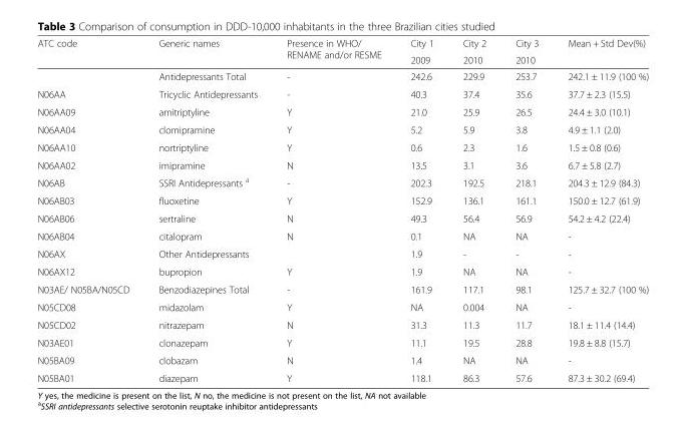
<table><thead><tr><td rowspan="2">ATC code</td><td rowspan="2">Generic names</td><td rowspan="2">Presence in WHO/ RENAME and/or RESME</td><td rowspan="2">City 1 2009</td><td rowspan="2">City 2 2010</td><td rowspan="2">City 3 2010</td><td rowspan="2">Mean + Std Dev(%)</td></tr><tr></tr></thead><tbody><tr><td></td><td>Antidepressants Total</td><td>-</td><td>242.6</td><td>229.9</td><td>253.7</td><td>242.1 ± 11.9 (100 %)</td></tr><tr><td>N06AA</td><td>Tricyclic Antidepressants</td><td>-</td><td>40.3</td><td>37.4</td><td>35.6</td><td>37.7 ± 2.3 (15.5)</td></tr><tr><td>N06AA09</td><td>amitriptyline</td><td>Y</td><td>21.0</td><td>25.9</td><td>26.5</td><td>24.4 ± 3.0 (10.1)</td></tr><tr><td>N06AA04</td><td>clomipramine</td><td>Y</td><td>5.2</td><td>5.9</td><td>3.8</td><td>4.9 ± 1.1 (2.0)</td></tr><tr><td>N06AA10</td><td>nortriptyline</td><td>Y</td><td>0.6</td><td>2.3</td><td>1.6</td><td>1.5 ± 0.8 (0.6)</td></tr><tr><td>N06AA02</td><td>imipramine</td><td>N</td><td>13.5</td><td>3.1</td><td>3.6</td><td>6.7 ± 5.8 (2.7)</td></tr><tr><td>N06AB</td><td>SSRI Antidepressants <sup>a</sup></td><td>-</td><td>202.3</td><td>192.5</td><td>218.1</td><td>204.3 ± 12.9 (84.3)</td></tr><tr><td>N06AB03</td><td>fluoxetine</td><td>Y</td><td>152.9</td><td>136.1</td><td>161.1</td><td>150.0 ± 12.7 (61.9)</td></tr><tr><td>N06AB06</td><td>sertraline</td><td>N</td><td>49.3</td><td>56.4</td><td>56.9</td><td>54.2 ± 4.2 (22.4)</td></tr><tr><td>N06AB04</td><td>citalopram</td><td>N</td><td>0.1</td><td>NA</td><td>NA</td><td>-</td></tr><tr><td>N06AX</td><td>Other Antidepressants</td><td></td><td>1.9</td><td>-</td><td>-</td><td>-</td></tr><tr><td>N06AX12</td><td>bupropion</td><td>Y</td><td>1.9</td><td>NA</td><td>NA</td><td>-</td></tr><tr><td>N03AE/ N05BA/N05CD</td><td>Benzodiazepines Total</td><td>-</td><td>161.9</td><td>117.1</td><td>98.1</td><td>125.7 ± 32.7 (100 %)</td></tr><tr><td>N05CD08</td><td>midazolam</td><td>Y</td><td>NA</td><td>0.004</td><td>NA</td><td>-</td></tr><tr><td>N05CD02</td><td>nitrazepam</td><td>N</td><td>31.3</td><td>11.3</td><td>11.7</td><td>18.1 ± 11.4 (14.4)</td></tr><tr><td>N03AE01</td><td>clonazepam</td><td>Y</td><td>11.1</td><td>19.5</td><td>28.8</td><td>19.8 ± 8.8 (15.7)</td></tr><tr><td>N05BA09</td><td>clobazam</td><td>N</td><td>1.4</td><td>NA</td><td>NA</td><td>-</td></tr><tr><td>N05BA01</td><td>diazepam</td><td>Y</td><td>118.1</td><td>86.3</td><td>57.6</td><td>87.3 ± 30.2 (69.4)</td></tr></tbody></table>